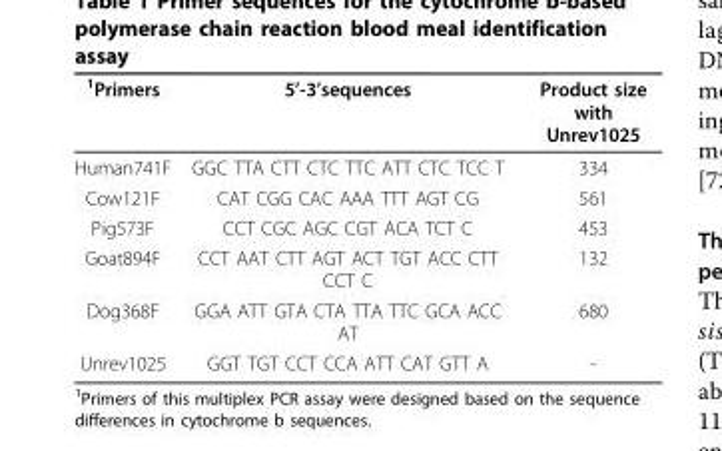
<table><thead><tr><td><sup>1</sup>Primers</td><td>5’-3’sequences</td><td>Product size with Unrev1025</td></tr></thead><tbody><tr><td>Human741F</td><td>GGC TTA CTT CTC TTC ATT CTC TCC T</td><td>334</td></tr><tr><td>Cow121F</td><td>CAT CGG CAC AAA TTT AGT CG</td><td>561</td></tr><tr><td>Pig573F</td><td>CCT CGC AGC CGT ACA TCT C</td><td>453</td></tr><tr><td>Goat894F</td><td>CCT AAT CTT AGT ACT TGT ACC CTT CCT C</td><td>132</td></tr><tr><td>Dog368F</td><td>GGA ATT GTA CTA TTA TTC GCA ACC AT</td><td>680</td></tr><tr><td>Unrev1025</td><td>GGT TGT CCT CCA ATT CAT GTT A</td><td>-</td></tr></tbody></table>